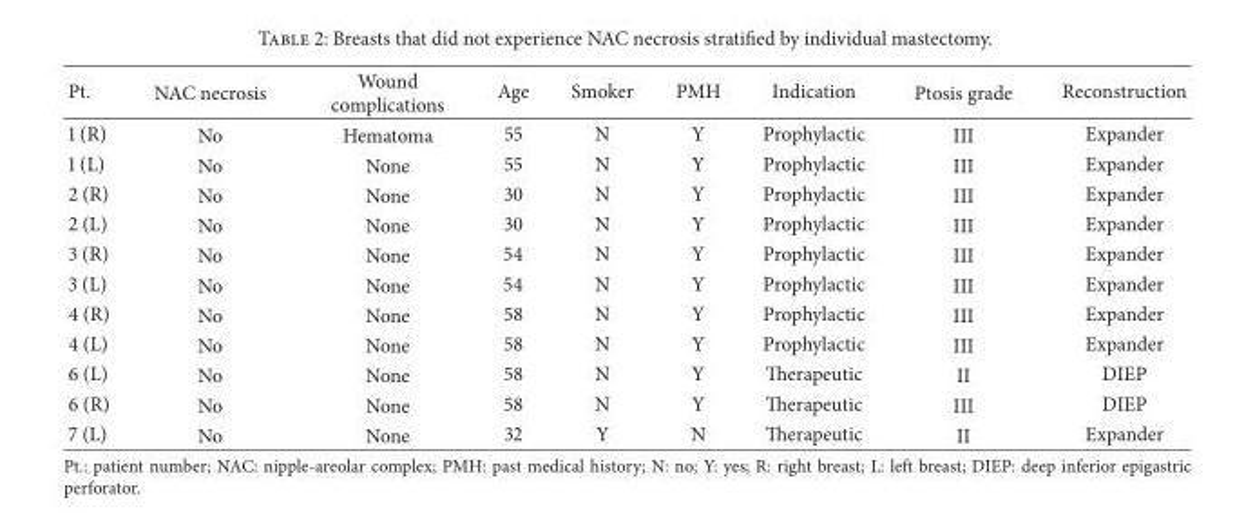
<table><thead><tr><td>Pt.</td><td>NAC necrosis</td><td>Wound complications</td><td>Age</td><td>Smoker</td><td>PMH</td><td>Indication</td><td>Ptosis grade</td><td>Reconstruction</td></tr></thead><tbody><tr><td>1 (R)</td><td>No</td><td>Hematoma</td><td>55</td><td>N</td><td>Y</td><td>Prophylactic</td><td>III</td><td>Expander</td></tr><tr><td>1 (L)</td><td>No</td><td>None</td><td>55</td><td>N</td><td>Y</td><td>Prophylactic</td><td>III</td><td>Expander</td></tr><tr><td>2 (R)</td><td>No</td><td>None</td><td>30</td><td>N</td><td>Y</td><td>Prophylactic</td><td>III</td><td>Expander</td></tr><tr><td>2 (L)</td><td>No</td><td>None</td><td>30</td><td>N</td><td>Y</td><td>Prophylactic</td><td>III</td><td>Expander</td></tr><tr><td>3 (R)</td><td>No</td><td>None</td><td>54</td><td>N</td><td>Y</td><td>Prophylactic</td><td>III</td><td>Expander</td></tr><tr><td>3 (L)</td><td>No</td><td>None</td><td>54</td><td>N</td><td>Y</td><td>Prophylactic</td><td>III</td><td>Expander</td></tr><tr><td>4 (R)</td><td>No</td><td>None</td><td>58</td><td>N</td><td>Y</td><td>Prophylactic</td><td>III</td><td>Expander</td></tr><tr><td>4 (L)</td><td>No</td><td>None</td><td>58</td><td>N</td><td>Y</td><td>Prophylactic</td><td>III</td><td>Expander</td></tr><tr><td>6 (L)</td><td>No</td><td>None</td><td>58</td><td>N</td><td>Y</td><td>Therapeutic</td><td>II</td><td>DIEP</td></tr><tr><td>6 (R)</td><td>No</td><td>None</td><td>58</td><td>N</td><td>Y</td><td>Therapeutic</td><td>III</td><td>DIEP</td></tr><tr><td>7 (L)</td><td>No</td><td>None</td><td>32</td><td>Y</td><td>N</td><td>Therapeutic</td><td>II</td><td>Expander</td></tr></tbody></table>